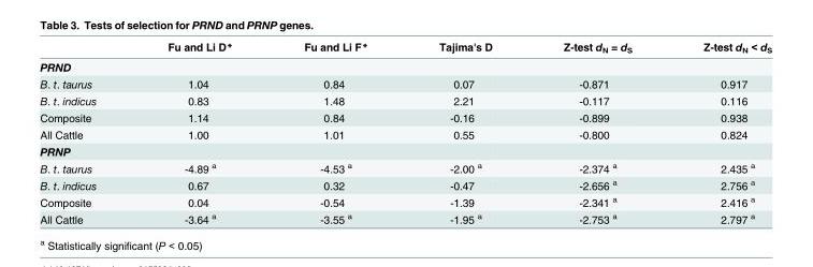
<table><thead><tr><td></td><td>Fu and Li D*</td><td>Fu and Li F*</td><td>Tajima&#x27;s D</td><td>Z-test d<sub>N</sub> = d<sub>S</sub></td><td>Z-test d<sub>N</sub> &lt; d<sub>S</sub></td></tr></thead><tbody><tr><td colspan="6">PRND</td></tr><tr><td>B. t. taurus</td><td>1.04</td><td>0.84</td><td>0.07</td><td>-0.871</td><td>0.917</td></tr><tr><td>B. t. indicus</td><td>0.83</td><td>1.48</td><td>2.21</td><td>-0.117</td><td>0.116</td></tr><tr><td>Composite</td><td>1.14</td><td>0.84</td><td>-0.16</td><td>-0.899</td><td>0.938</td></tr><tr><td>All Cattle</td><td>1.00</td><td>1.01</td><td>0.55</td><td>-0.800</td><td>0.824</td></tr><tr><td colspan="6">PRNP</td></tr><tr><td>B. t. taurus</td><td>-4.89 <sup>a</sup></td><td>-4.53 <sup>a</sup></td><td>-2.00 <sup>a</sup></td><td>-2.374 <sup>a</sup></td><td>2.435 <sup>a</sup></td></tr><tr><td>B. t. indicus</td><td>0.67</td><td>0.32</td><td>-0.47</td><td>-2.656 <sup>a</sup></td><td>2.756 <sup>a</sup></td></tr><tr><td>Composite</td><td>0.04</td><td>-0.54</td><td>-1.39</td><td>-2.341 <sup>a</sup></td><td>2.416 <sup>a</sup></td></tr><tr><td>All Cattle</td><td>-3.64 <sup>a</sup></td><td>-3.55 <sup>a</sup></td><td>-1.95 <sup>a</sup></td><td>-2.753 <sup>a</sup></td><td>2.797 <sup>a</sup></td></tr></tbody></table>